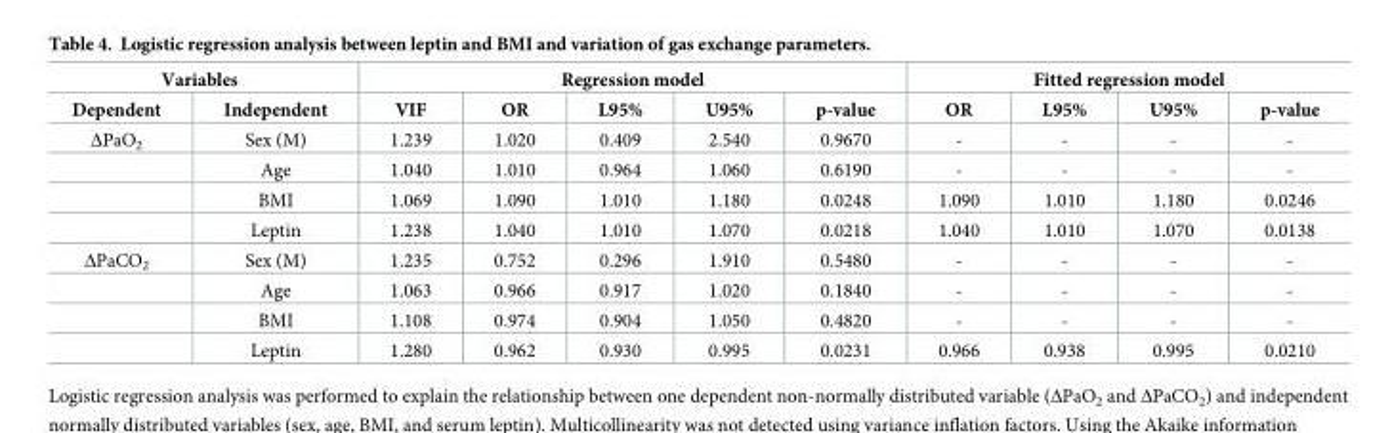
<table><tbody><tr><td colspan="2">Variables</td><td colspan="5">Regression model</td><td colspan="4">Fitted regression model</td></tr><tr><td>Dependent</td><td>Independent</td><td>VIF</td><td>OR</td><td>L95%</td><td>U95%</td><td>p-value</td><td>OR</td><td>L95%</td><td>U95%</td><td>p-value</td></tr><tr><td rowspan="4">ΔPaO<sub>2</sub></td><td>Sex (M)</td><td>1.239</td><td>1.020</td><td>0.409</td><td>2.540</td><td>0.9670</td><td>-</td><td>-</td><td>-</td><td>-</td></tr><tr><td>Age</td><td>1.040</td><td>1.010</td><td>0.964</td><td>1.060</td><td>0.6190</td><td>-</td><td>-</td><td>-</td><td>-</td></tr><tr><td>BMI</td><td>1.069</td><td>1.090</td><td>1.010</td><td>1.180</td><td>0.0248</td><td>1.090</td><td>1.010</td><td>1.180</td><td>0.0246</td></tr><tr><td>Leptin</td><td>1.238</td><td>1.040</td><td>1.010</td><td>1.070</td><td>0.0218</td><td>1.040</td><td>1.010</td><td>1.070</td><td>0.0138</td></tr><tr><td rowspan="4">ΔPaCO<sub>2</sub></td><td>Sex (M)</td><td>1.235</td><td>0.752</td><td>0.296</td><td>1.910</td><td>0.5480</td><td>-</td><td>-</td><td>-</td><td>-</td></tr><tr><td>Age</td><td>1.063</td><td>0.966</td><td>0.917</td><td>1.020</td><td>0.1840</td><td>-</td><td>-</td><td>-</td><td>-</td></tr><tr><td>BMI</td><td>1.108</td><td>0.974</td><td>0.904</td><td>1.050</td><td>0.4820</td><td>-</td><td>-</td><td>-</td><td>-</td></tr><tr><td>Leptin</td><td>1.280</td><td>0.962</td><td>0.930</td><td>0.995</td><td>0.0231</td><td>0.966</td><td>0.938</td><td>0.995</td><td>0.0210</td></tr></tbody></table>